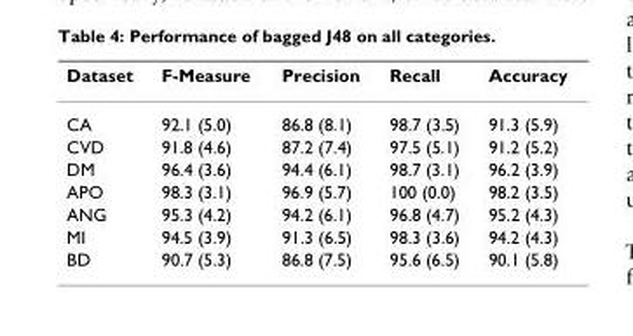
<table><thead><tr><td>Dataset</td><td>F-Measure</td><td>Precision</td><td>Recall</td><td>Accuracy</td></tr></thead><tbody><tr><td>CA</td><td>92.1 (5.0)</td><td>86.8 (8.1)</td><td>98.7 (3.5)</td><td>91.3 (5.9)</td></tr><tr><td>CVD</td><td>91.8 (4.6)</td><td>87.2 (7.4)</td><td>97.5 (5.1)</td><td>91.2 (5.2)</td></tr><tr><td>DM</td><td>96.4 (3.6)</td><td>94.4 (6.1)</td><td>98.7 (3.1)</td><td>96.2 (3.9)</td></tr><tr><td>APO</td><td>98.3 (3.1)</td><td>96.9 (5.7)</td><td>100 (0.0)</td><td>98.2 (3.5)</td></tr><tr><td>ANG</td><td>95.3 (4.2)</td><td>94.2 (6.1)</td><td>96.8 (4.7)</td><td>95.2 (4.3)</td></tr><tr><td>MI</td><td>94.5 (3.9)</td><td>91.3 (6.5)</td><td>98.3 (3.6)</td><td>94.2 (4.3)</td></tr><tr><td>BD</td><td>90.7 (5.3)</td><td>86.8 (7.5)</td><td>95.6 (6.5)</td><td>90.1 (5.8)</td></tr></tbody></table>